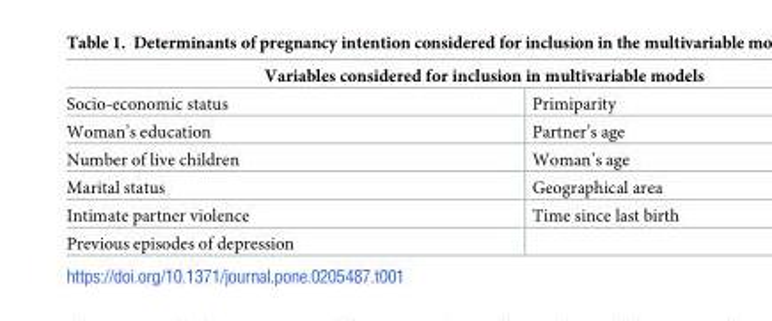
<table><thead><tr><td colspan="2">Variables considered for inclusion in multivariable models</td></tr><tr><td>Socio-economic status</td><td>Primiparity</td></tr></thead><tbody><tr><td>Woman’s education</td><td>Partner’s age</td></tr><tr><td>Number of live children</td><td>Woman’s age</td></tr><tr><td>Marital status</td><td>Geographical area</td></tr><tr><td>Intimate partner violence</td><td>Time since last birth</td></tr><tr><td>Previous episodes of depression</td><td></td></tr></tbody></table>